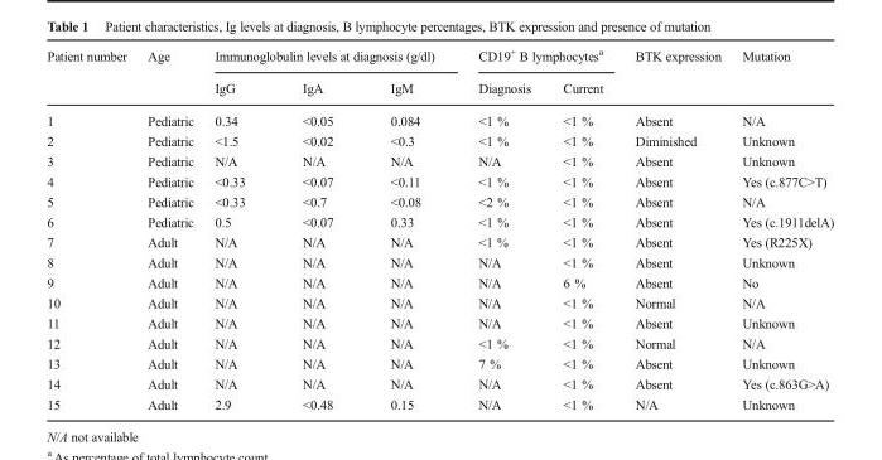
<table><thead><tr><td rowspan="2">Patient number</td><td rowspan="2">Age</td><td colspan="3">Immunoglobulin levels at diagnosis (g/dl)</td><td colspan="2">CD19<sup>+</sup> B lymphocytes<sup>a</sup></td><td rowspan="2">BTK expression</td><td rowspan="2">Mutation</td></tr><tr><td>IgG</td><td>IgA</td><td>IgM</td><td>Diagnosis</td><td>Current</td></tr></thead><tbody><tr><td>1</td><td>Pediatric</td><td>0.34</td><td>&lt;0.05</td><td>0.084</td><td>&lt;1 %</td><td>&lt;1 %</td><td>Absent</td><td>N/A</td></tr><tr><td>2</td><td>Pediatric</td><td>&lt;1.5</td><td>&lt;0.02</td><td>&lt;0.3</td><td>&lt;1 %</td><td>&lt;1 %</td><td>Diminished</td><td>Unknown</td></tr><tr><td>3</td><td>Pediatric</td><td>N/A</td><td>N/A</td><td>N/A</td><td>N/A</td><td>&lt;1 %</td><td>Absent</td><td>Unknown</td></tr><tr><td>4</td><td>Pediatric</td><td>&lt;0.33</td><td>&lt;0.07</td><td>&lt;0.11</td><td>&lt;1 %</td><td>&lt;1 %</td><td>Absent</td><td>Yes (c.877C&gt;T)</td></tr><tr><td>5</td><td>Pediatric</td><td>&lt;0.33</td><td>&lt;0.7</td><td>&lt;0.08</td><td>&lt;2 %</td><td>&lt;1 %</td><td>Absent</td><td>N/A</td></tr><tr><td>6</td><td>Pediatric</td><td>0.5</td><td>&lt;0.07</td><td>0.33</td><td>&lt;1 %</td><td>&lt;1 %</td><td>Absent</td><td>Yes (c.1911delA)</td></tr><tr><td>7</td><td>Adult</td><td>N/A</td><td>N/A</td><td>N/A</td><td>&lt;1 %</td><td>&lt;1 %</td><td>Absent</td><td>Yes (R225X)</td></tr><tr><td>8</td><td>Adult</td><td>N/A</td><td>N/A</td><td>N/A</td><td>N/A</td><td>&lt;1 %</td><td>Absent</td><td>Unknown</td></tr><tr><td>9</td><td>Adult</td><td>N/A</td><td>N/A</td><td>N/A</td><td>N/A</td><td>6 %</td><td>Absent</td><td>No</td></tr><tr><td>10</td><td>Adult</td><td>N/A</td><td>N/A</td><td>N/A</td><td>N/A</td><td>&lt;1 %</td><td>Normal</td><td>N/A</td></tr><tr><td>11</td><td>Adult</td><td>N/A</td><td>N/A</td><td>N/A</td><td>N/A</td><td>&lt;1 %</td><td>Absent</td><td>Unknown</td></tr><tr><td>12</td><td>Adult</td><td>N/A</td><td>N/A</td><td>N/A</td><td>&lt;1 %</td><td>&lt;1 %</td><td>Normal</td><td>N/A</td></tr><tr><td>13</td><td>Adult</td><td>N/A</td><td>N/A</td><td>N/A</td><td>7 %</td><td>&lt;1 %</td><td>Absent</td><td>Unknown</td></tr><tr><td>14</td><td>Adult</td><td>N/A</td><td>N/A</td><td>N/A</td><td>N/A</td><td>&lt;1 %</td><td>Absent</td><td>Yes (c.863G&gt;A)</td></tr><tr><td>15</td><td>Adult</td><td>2.9</td><td>&lt;0.48</td><td>0.15</td><td>N/A</td><td>&lt;1 %</td><td>N/A</td><td>Unknown</td></tr></tbody></table>